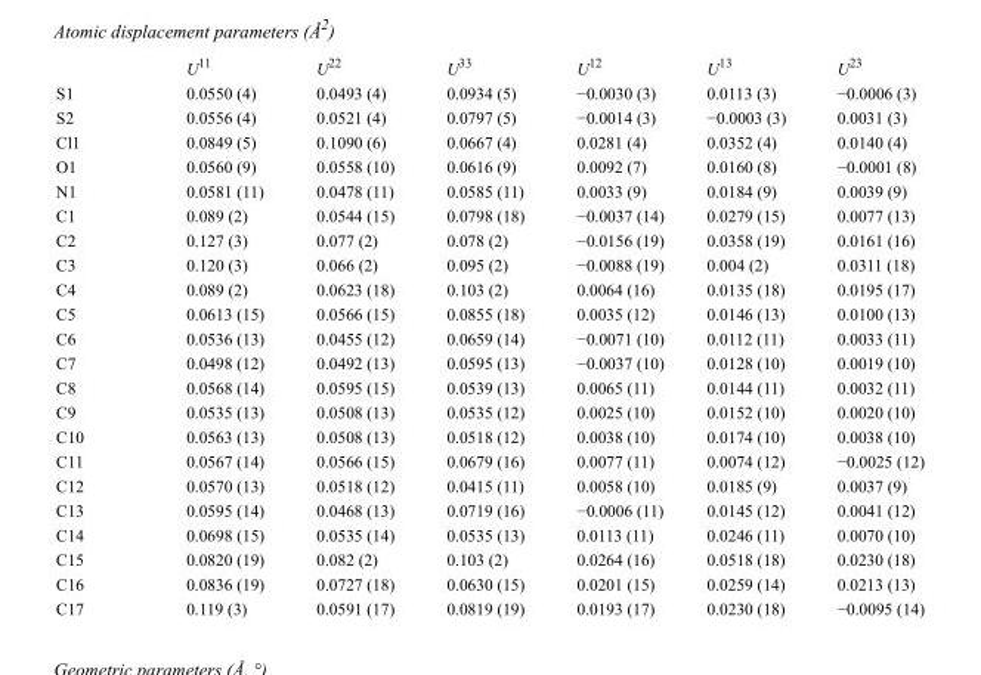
<table><thead><tr><td></td><td>U<sup>11</sup></td><td>U<sup>22</sup></td><td>U<sup>33</sup></td><td>U<sup>12</sup></td><td>U<sup>13</sup></td><td>U<sup>23</sup></td></tr></thead><tbody><tr><td>S1</td><td>0.0550 (4)</td><td>0.0493 (4)</td><td>0.0934 (5)</td><td>−0.0030 (3)</td><td>0.0113 (3)</td><td>−0.0006 (3)</td></tr><tr><td>S2</td><td>0.0556 (4)</td><td>0.0521 (4)</td><td>0.0797 (5)</td><td>−0.0014 (3)</td><td>−0.0003 (3)</td><td>0.0031 (3)</td></tr><tr><td>Cl1</td><td>0.0849 (5)</td><td>0.1090 (6)</td><td>0.0667 (4)</td><td>0.0281 (4)</td><td>0.0352 (4)</td><td>0.0140 (4)</td></tr><tr><td>O1</td><td>0.0560 (9)</td><td>0.0558 (10)</td><td>0.0616 (9)</td><td>0.0092 (7)</td><td>0.0160 (8)</td><td>−0.0001 (8)</td></tr><tr><td>N1</td><td>0.0581 (11)</td><td>0.0478 (11)</td><td>0.0585 (11)</td><td>0.0033 (9)</td><td>0.0184 (9)</td><td>0.0039 (9)</td></tr><tr><td>C1</td><td>0.089 (2)</td><td>0.0544 (15)</td><td>0.0798 (18)</td><td>−0.0037 (14)</td><td>0.0279 (15)</td><td>0.0077 (13)</td></tr><tr><td>C2</td><td>0.127 (3)</td><td>0.077 (2)</td><td>0.078 (2)</td><td>−0.0156 (19)</td><td>0.0358 (19)</td><td>0.0161 (16)</td></tr><tr><td>C3</td><td>0.120 (3)</td><td>0.066 (2)</td><td>0.095 (2)</td><td>−0.0088 (19)</td><td>0.004 (2)</td><td>0.0311 (18)</td></tr><tr><td>C4</td><td>0.089 (2)</td><td>0.0623 (18)</td><td>0.103 (2)</td><td>0.0064 (16)</td><td>0.0135 (18)</td><td>0.0195 (17)</td></tr><tr><td>C5</td><td>0.0613 (15)</td><td>0.0566 (15)</td><td>0.0855 (18)</td><td>0.0035 (12)</td><td>0.0146 (13)</td><td>0.0100 (13)</td></tr><tr><td>C6</td><td>0.0536 (13)</td><td>0.0455 (12)</td><td>0.0659 (14)</td><td>−0.0071 (10)</td><td>0.0112 (11)</td><td>0.0033 (11)</td></tr><tr><td>C7</td><td>0.0498 (12)</td><td>0.0492 (13)</td><td>0.0595 (13)</td><td>−0.0037 (10)</td><td>0.0128 (10)</td><td>0.0019 (10)</td></tr><tr><td>C8</td><td>0.0568 (14)</td><td>0.0595 (15)</td><td>0.0539 (13)</td><td>0.0065 (11)</td><td>0.0144 (11)</td><td>0.0032 (11)</td></tr><tr><td>C9</td><td>0.0535 (13)</td><td>0.0508 (13)</td><td>0.0535 (12)</td><td>0.0025 (10)</td><td>0.0152 (10)</td><td>0.0020 (10)</td></tr><tr><td>C10</td><td>0.0563 (13)</td><td>0.0508 (13)</td><td>0.0518 (12)</td><td>0.0038 (10)</td><td>0.0174 (10)</td><td>0.0038 (10)</td></tr><tr><td>C11</td><td>0.0567 (14)</td><td>0.0566 (15)</td><td>0.0679 (16)</td><td>0.0077 (11)</td><td>0.0074 (12)</td><td>−0.0025 (12)</td></tr><tr><td>C12</td><td>0.0570 (13)</td><td>0.0518 (12)</td><td>0.0415 (11)</td><td>0.0058 (10)</td><td>0.0185 (9)</td><td>0.0037 (9)</td></tr><tr><td>C13</td><td>0.0595 (14)</td><td>0.0468 (13)</td><td>0.0719 (16)</td><td>−0.0006 (11)</td><td>0.0145 (12)</td><td>0.0041 (12)</td></tr><tr><td>C14</td><td>0.0698 (15)</td><td>0.0535 (14)</td><td>0.0535 (13)</td><td>0.0113 (11)</td><td>0.0246 (11)</td><td>0.0070 (10)</td></tr><tr><td>C15</td><td>0.0820 (19)</td><td>0.082 (2)</td><td>0.103 (2)</td><td>0.0264 (16)</td><td>0.0518 (18)</td><td>0.0230 (18)</td></tr><tr><td>C16</td><td>0.0836 (19)</td><td>0.0727 (18)</td><td>0.0630 (15)</td><td>0.0201 (15)</td><td>0.0259 (14)</td><td>0.0213 (13)</td></tr><tr><td>C17</td><td>0.119 (3)</td><td>0.0591 (17)</td><td>0.0819 (19)</td><td>0.0193 (17)</td><td>0.0230 (18)</td><td>−0.0095 (14)</td></tr></tbody></table>